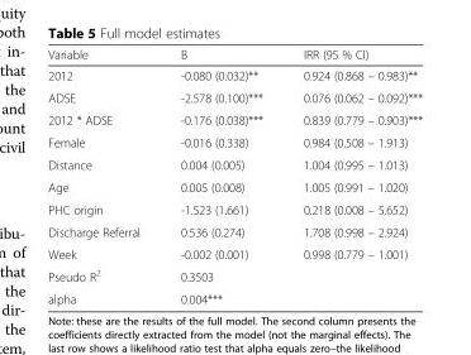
<table><thead><tr><td>Variable</td><td>B</td><td>IRR (95 % CI)</td></tr></thead><tbody><tr><td>2012</td><td>-0.080 (0.032)**</td><td>0.924 (0.868 – 0.983)**</td></tr><tr><td>ADSE</td><td>-2.578 (0.100)***</td><td>0.076 (0.062 – 0.092)***</td></tr><tr><td>2012 * ADSE</td><td>-0.176 (0.038)***</td><td>0.839 (0.779 – 0.903)***</td></tr><tr><td>Female</td><td>-0.016 (0.338)</td><td>0.984 (0.508 – 1.913)</td></tr><tr><td>Distance</td><td>0.004 (0.005)</td><td>1.004 (0.995 – 1.013)</td></tr><tr><td>Age</td><td>0.005 (0.008)</td><td>1.005 (0.991 – 1.020)</td></tr><tr><td>PHC origin</td><td>-1.523 (1.661)</td><td>0.218 (0.008 – 5.652)</td></tr><tr><td>Discharge Referral</td><td>0.536 (0.274)</td><td>1.708 (0.998 – 2.924)</td></tr><tr><td>Week</td><td>-0.002 (0.001)</td><td>0.998 (0.779 – 1.001)</td></tr><tr><td>Pseudo R<sup>2</sup></td><td>0.3503</td><td></td></tr><tr><td>alpha</td><td>0.004***</td><td></td></tr></tbody></table>